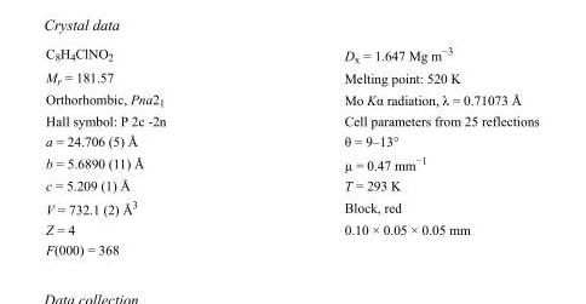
<table><tbody><tr><td>C<sub>8</sub>H<sub>4</sub>ClNO<sub>2</sub></td><td>D<sub>x</sub> = 1.647 Mg m<sup>−3</sup></td></tr><tr><td>M<sub>r</sub> = 181.57</td><td>Melting point: 520 K</td></tr><tr><td>Orthorhombic, Pna2<sub>1</sub></td><td>Mo Kα radiation, λ = 0.71073 Å</td></tr><tr><td>Hall symbol: P 2c -2n</td><td>Cell parameters from 25 reflections</td></tr><tr><td>a = 24.706 (5) Å</td><td>θ = 9–13°</td></tr><tr><td>b = 5.6890 (11) Å</td><td>µ = 0.47 mm<sup>−1</sup></td></tr><tr><td>c = 5.209 (1) Å</td><td>T = 293 K</td></tr><tr><td>V = 732.1 (2) Å<sup>3</sup></td><td>Block, red</td></tr><tr><td>Z = 4</td><td>0.10 × 0.05 × 0.05 mm</td></tr><tr><td>F(000) = 368</td><td></td></tr></tbody></table>